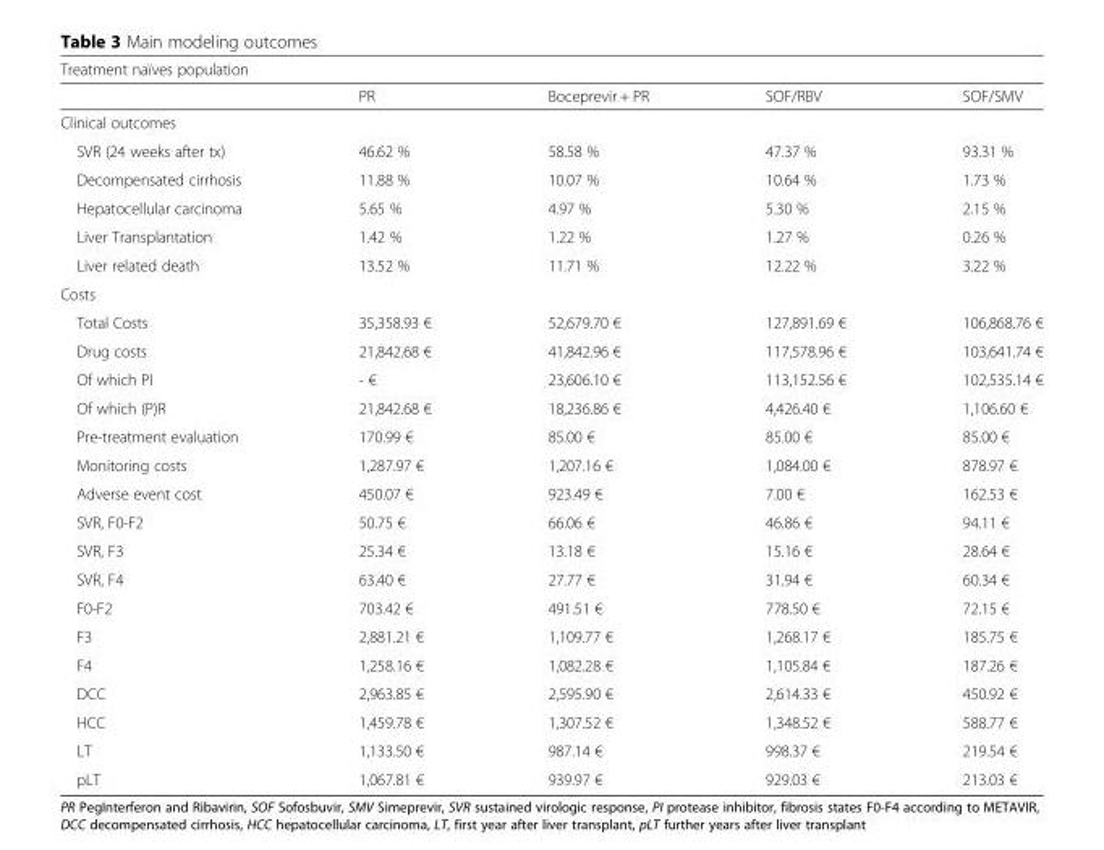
<table><thead><tr><td colspan="5">Treatment naïves population</td></tr><tr><td></td><td>PR</td><td>Boceprevir + PR</td><td>SOF/RBV</td><td>SOF/SMV</td></tr></thead><tbody><tr><td colspan="5">Clinical outcomes</td></tr><tr><td>SVR (24 weeks after tx)</td><td>46.62 %</td><td>58.58 %</td><td>47.37 %</td><td>93.31 %</td></tr><tr><td>Decompensated cirrhosis</td><td>11.88 %</td><td>10.07 %</td><td>10.64 %</td><td>1.73 %</td></tr><tr><td>Hepatocellular carcinoma</td><td>5.65 %</td><td>4.97 %</td><td>5.30 %</td><td>2.15 %</td></tr><tr><td>Liver Transplantation</td><td>1.42 %</td><td>1.22 %</td><td>1.27 %</td><td>0.26 %</td></tr><tr><td>Liver related death</td><td>13.52 %</td><td>11.71 %</td><td>12.22 %</td><td>3.22 %</td></tr><tr><td colspan="5">Costs</td></tr><tr><td>Total Costs</td><td>35,358.93 €</td><td>52,679.70 €</td><td>127,891.69 €</td><td>106,868.76 €</td></tr><tr><td>Drug costs</td><td>21,842.68 €</td><td>41,842.96 €</td><td>117,578.96 €</td><td>103,641.74 €</td></tr><tr><td>Of which PI</td><td>- €</td><td>23,606.10 €</td><td>113,152.56 €</td><td>102,535.14 €</td></tr><tr><td>Of which (P)R</td><td>21,842.68 €</td><td>18,236.86 €</td><td>4,426.40 €</td><td>1,106.60 €</td></tr><tr><td>Pre-treatment evaluation</td><td>170.99 €</td><td>85.00 €</td><td>85.00 €</td><td>85.00 €</td></tr><tr><td>Monitoring costs</td><td>1,287.97 €</td><td>1,207.16 €</td><td>1,084.00 €</td><td>878.97 €</td></tr><tr><td>Adverse event cost</td><td>450.07 €</td><td>923.49 €</td><td>7.00 €</td><td>162.53 €</td></tr><tr><td>SVR, F0-F2</td><td>50.75 €</td><td>66.06 €</td><td>46.86 €</td><td>94.11 €</td></tr><tr><td>SVR, F3</td><td>25.34 €</td><td>13.18 €</td><td>15.16 €</td><td>28.64 €</td></tr><tr><td>SVR, F4</td><td>63.40 €</td><td>27.77 €</td><td>31.94 €</td><td>60.34 €</td></tr><tr><td>F0-F2</td><td>703.42 €</td><td>491.51 €</td><td>778.50 €</td><td>72.15 €</td></tr><tr><td>F3</td><td>2,881.21 €</td><td>1,109.77 €</td><td>1,268.17 €</td><td>185.75 €</td></tr><tr><td>F4</td><td>1,258.16 €</td><td>1,082.28 €</td><td>1,105.84 €</td><td>187.26 €</td></tr><tr><td>DCC</td><td>2,963.85 €</td><td>2,595.90 €</td><td>2,614.33 €</td><td>450.92 €</td></tr><tr><td>HCC</td><td>1,459.78 €</td><td>1,307.52 €</td><td>1,348.52 €</td><td>588.77 €</td></tr><tr><td>LT</td><td>1,133.50 €</td><td>987.14 €</td><td>998.37 €</td><td>219.54 €</td></tr><tr><td>pLT</td><td>1,067.81 €</td><td>939.97 €</td><td>929.03 €</td><td>213.03 €</td></tr></tbody></table>